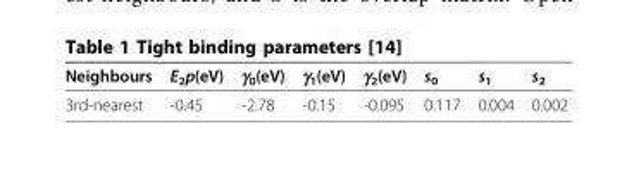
<table><thead><tr><td>Neighbours</td><td>E<sub>2</sub>p(eV)</td><td>γ<sub>0</sub>(eV)</td><td>γ<sub>1</sub>(eV)</td><td>γ<sub>2</sub>(eV)</td><td>s<sub>0</sub></td><td>s<sub>1</sub></td><td>s<sub>2</sub></td></tr></thead><tbody><tr><td>3rd-nearest</td><td>-0.45</td><td>-2.78</td><td>-0.15</td><td>-0.095</td><td>0.117</td><td>0.004</td><td>0.002</td></tr></tbody></table>